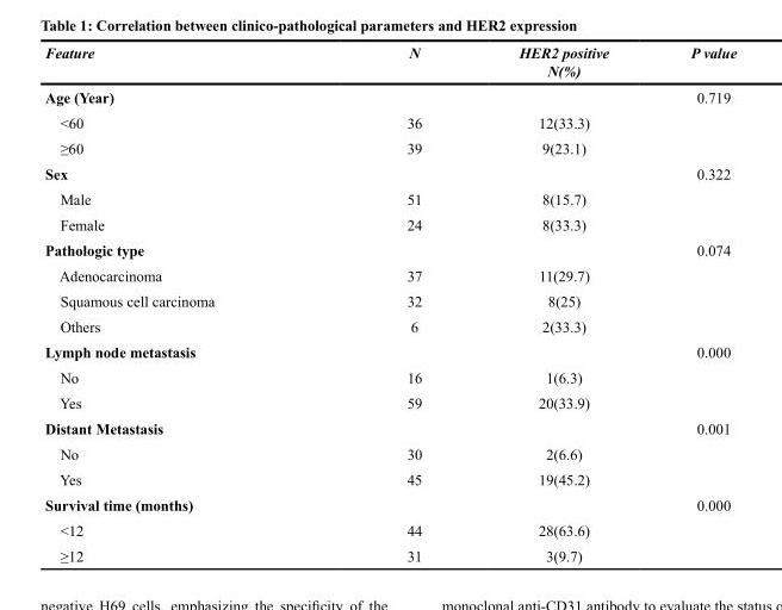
<table><thead><tr><td>Feature</td><td>N</td><td>HER2 positive N(%)</td><td>P value</td></tr></thead><tbody><tr><td>Age (Year)</td><td></td><td></td><td>0.719</td></tr><tr><td>&lt;60</td><td>36</td><td>12(33.3)</td><td></td></tr><tr><td>≥60</td><td>39</td><td>9(23.1)</td><td></td></tr><tr><td>Sex</td><td></td><td></td><td>0.322</td></tr><tr><td>Male</td><td>51</td><td>8(15.7)</td><td></td></tr><tr><td>Female</td><td>24</td><td>8(33.3)</td><td></td></tr><tr><td>Pathologic type</td><td></td><td></td><td>0.074</td></tr><tr><td>Adenocarcinoma</td><td>37</td><td>11(29.7)</td><td></td></tr><tr><td>Squamous cell carcinoma</td><td>32</td><td>8(25)</td><td></td></tr><tr><td>Others</td><td>6</td><td>2(33.3)</td><td></td></tr><tr><td>Lymph node metastasis</td><td></td><td></td><td>0.000</td></tr><tr><td>No</td><td>16</td><td>1(6.3)</td><td></td></tr><tr><td>Yes</td><td>59</td><td>20(33.9)</td><td></td></tr><tr><td>Distant Metastasis</td><td></td><td></td><td>0.001</td></tr><tr><td>No</td><td>30</td><td>2(6.6)</td><td></td></tr><tr><td>Yes</td><td>45</td><td>19(45.2)</td><td></td></tr><tr><td>Survival time (months)</td><td></td><td></td><td>0.000</td></tr><tr><td>&lt;12</td><td>44</td><td>28(63.6)</td><td></td></tr><tr><td>≥12</td><td>31</td><td>3(9.7)</td><td></td></tr></tbody></table>